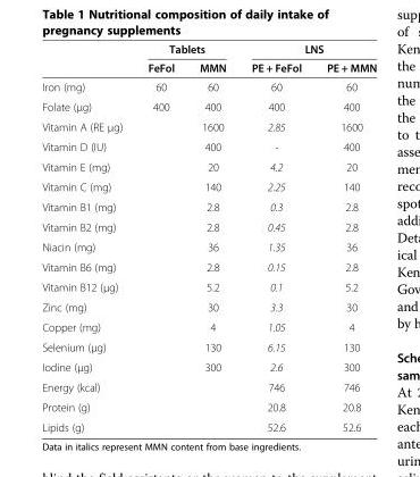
<table><thead><tr><td rowspan="2"></td><td colspan="2">Tablets</td><td colspan="2">LNS</td></tr><tr><td>FeFol</td><td>MMN</td><td>PE + FeFol</td><td>PE + MMN</td></tr></thead><tbody><tr><td>Iron (mg)</td><td>60</td><td>60</td><td>60</td><td>60</td></tr><tr><td>Folate (μg)</td><td>400</td><td>400</td><td>400</td><td>400</td></tr><tr><td>Vitamin A (RE μg)</td><td></td><td>1600</td><td>2.85</td><td>1600</td></tr><tr><td>Vitamin D (IU)</td><td></td><td>400</td><td>-</td><td>400</td></tr><tr><td>Vitamin E (mg)</td><td></td><td>20</td><td>4.2</td><td>20</td></tr><tr><td>Vitamin C (mg)</td><td></td><td>140</td><td>2.25</td><td>140</td></tr><tr><td>Vitamin B1 (mg)</td><td></td><td>2.8</td><td>0.3</td><td>2.8</td></tr><tr><td>Vitamin B2 (mg)</td><td></td><td>2.8</td><td>0.45</td><td>2.8</td></tr><tr><td>Niacin (mg)</td><td></td><td>36</td><td>1.35</td><td>36</td></tr><tr><td>Vitamin B6 (mg)</td><td></td><td>2.8</td><td>0.15</td><td>2.8</td></tr><tr><td>Vitamin B12 (μg)</td><td></td><td>5.2</td><td>0.1</td><td>5.2</td></tr><tr><td>Zinc (mg)</td><td></td><td>30</td><td>3.3</td><td>30</td></tr><tr><td>Copper (mg)</td><td></td><td>4</td><td>1.05</td><td>4</td></tr><tr><td>Selenium (μg)</td><td></td><td>130</td><td>6.15</td><td>130</td></tr><tr><td>Iodine (μg)</td><td></td><td>300</td><td>2.6</td><td>300</td></tr><tr><td>Energy (kcal)</td><td></td><td></td><td>746</td><td>746</td></tr><tr><td>Protein (g)</td><td></td><td></td><td>20.8</td><td>20.8</td></tr><tr><td>Lipids (g)</td><td></td><td></td><td>52.6</td><td>52.6</td></tr></tbody></table>